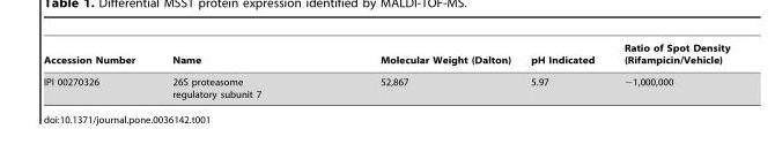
<table><thead><tr><td>Accession Number</td><td>Name</td><td>Molecular Weight (Dalton)</td><td>pH Indicated</td><td>Ratio of Spot Density (Rifampicin/Vehicle)</td></tr></thead><tbody><tr><td>IPI 00270326</td><td>26S proteasome regulatory subunit 7</td><td>52,867</td><td>5.97</td><td>−1,000,000</td></tr></tbody></table>